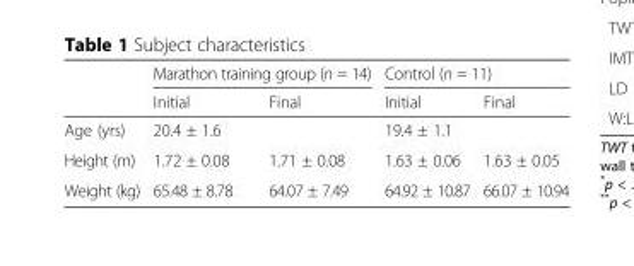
<table><thead><tr><td rowspan="2"></td><td colspan="2">Marathon training group (n = 14)</td><td colspan="2">Control (n = 11)</td></tr><tr><td>Initial</td><td>Final</td><td>Initial</td><td>Final</td></tr></thead><tbody><tr><td>Age (yrs)</td><td>20.4 ± 1.6</td><td></td><td>19.4 ± 1.1</td><td></td></tr><tr><td>Height (m)</td><td>1.72 ± 0.08</td><td>1.71 ± 0.08</td><td>1.63 ± 0.06</td><td>1.63 ± 0.05</td></tr><tr><td>Weight (kg)</td><td>65.48 ± 8.78</td><td>64.07 ± 7.49</td><td>64.92 ± 10.87</td><td>66.07 ± 10.94</td></tr></tbody></table>